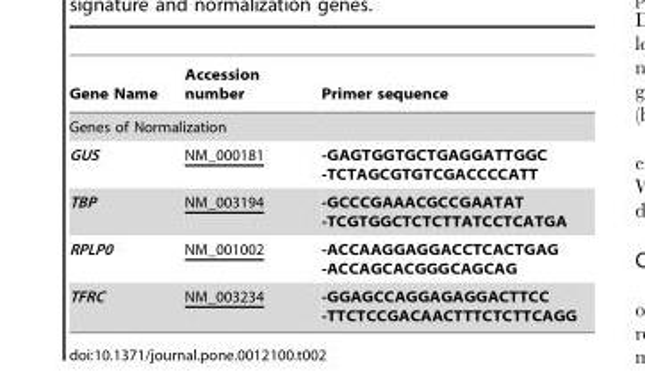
<table><thead><tr><td>Gene Name</td><td>Accession number</td><td>Primer sequence</td></tr></thead><tbody><tr><td colspan="3">Genes of Normalization</td></tr><tr><td>GUS</td><td>NM_000181</td><td>-GAGTGGTGCTGAGGATTGGC -TCTAGCGTGTCGACCCCATT</td></tr><tr><td>TBP</td><td>NM_003194</td><td>-GCCCGAAACGCCGAATAT -TCGTGGCTCTCTTATCCTCATGA</td></tr><tr><td>RPLP0</td><td>NM_001002</td><td>-ACCAAGGAGGACCTCACTGAG -ACCAGCACGGGCAGCAG</td></tr><tr><td>TFRC</td><td>NM_003234</td><td>-GGAGCCAGGAGAGGACTTCC -TTCTCCGACAACTTTCTCTTCAGG</td></tr></tbody></table>